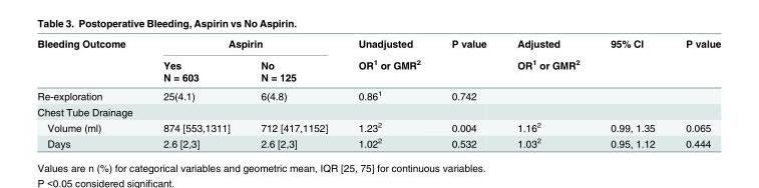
<table><thead><tr><td rowspan="3">Bleeding Outcome</td><td colspan="2">Aspirin</td><td rowspan="3">Unadjusted OR<sup>1</sup> or GMR<sup>2</sup></td><td rowspan="3">P value</td><td rowspan="3">Adjusted OR<sup>1</sup> or GMR<sup>2</sup></td><td rowspan="3">95% CI</td><td rowspan="3">P value</td></tr><tr><td rowspan="2">Yes N = 603</td><td rowspan="2">No N = 125</td></tr><tr></tr></thead><tbody><tr><td>Re-exploration</td><td>25(4.1)</td><td>6(4.8)</td><td>0.86<sup>1</sup></td><td>0.742</td><td></td><td></td><td></td></tr><tr><td colspan="8">Chest Tube Drainage</td></tr><tr><td>Volume (ml)</td><td>874 [553,1311]</td><td>712 [417,1152]</td><td>1.23<sup>2</sup></td><td>0.004</td><td>1.16<sup>2</sup></td><td>0.99, 1.35</td><td>0.065</td></tr><tr><td>Days</td><td>2.6 [2,3]</td><td>2.6 [2,3]</td><td>1.02<sup>2</sup></td><td>0.532</td><td>1.03<sup>2</sup></td><td>0.95, 1.12</td><td>0.444</td></tr></tbody></table>